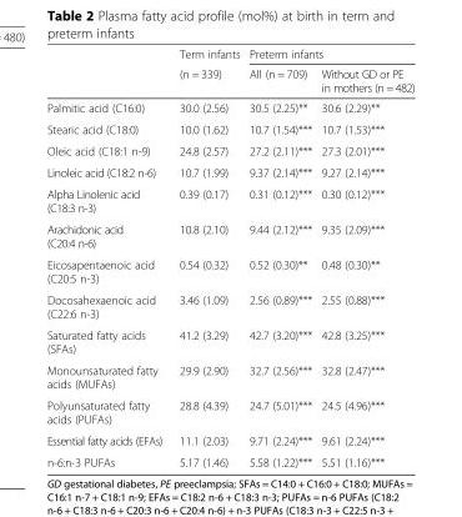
<table><thead><tr><td rowspan="2"></td><td rowspan="2">Term infants (n = 339)</td><td colspan="2">Preterm infants</td></tr><tr><td>All (n = 709)</td><td>Without GD or PE in mothers (n = 482)</td></tr></thead><tbody><tr><td>Palmitic acid (C16:0)</td><td>30.0 (2.56)</td><td>30.5 (2.25)**</td><td>30.6 (2.29)**</td></tr><tr><td>Stearic acid (C18:0)</td><td>10.0 (1.62)</td><td>10.7 (1.54)***</td><td>10.7 (1.53)***</td></tr><tr><td>Oleic acid (C18:1 n-9)</td><td>24.8 (2.57)</td><td>27.2 (2.11)***</td><td>27.3 (2.01)***</td></tr><tr><td>Linoleic acid (C18:2 n-6)</td><td>10.7 (1.99)</td><td>9.37 (2.14)***</td><td>9.27 (2.14)***</td></tr><tr><td>Alpha Linolenic acid (C18:3 n-3)</td><td>0.39 (0.17)</td><td>0.31 (0.12)***</td><td>0.30 (0.12)***</td></tr><tr><td>Arachidonic acid (C20:4 n-6)</td><td>10.8 (2.10)</td><td>9.44 (2.12)***</td><td>9.35 (2.09)***</td></tr><tr><td>Eicosapentaenoic acid (C20:5 n-3)</td><td>0.54 (0.32)</td><td>0.52 (0.30)**</td><td>0.48 (0.30)**</td></tr><tr><td>Docosahexaenoic acid (C22:6 n-3)</td><td>3.46 (1.09)</td><td>2.56 (0.89)***</td><td>2.55 (0.88)***</td></tr><tr><td>Saturated fatty acids (SFAs)</td><td>41.2 (3.29)</td><td>42.7 (3.20)***</td><td>42.8 (3.25)***</td></tr><tr><td>Monounsaturated fatty acids (MUFAs)</td><td>29.9 (2.90)</td><td>32.7 (2.56)***</td><td>32.8 (2.47)***</td></tr><tr><td>Polyunsaturated fatty acids (PUFAs)</td><td>28.8 (4.39)</td><td>24.7 (5.01)***</td><td>24.5 (4.96)***</td></tr><tr><td>Essential fatty acids (EFAs)</td><td>11.1 (2.03)</td><td>9.71 (2.24)***</td><td>9.61 (2.24)***</td></tr><tr><td>n-6:n-3 PUFAs</td><td>5.17 (1.46)</td><td>5.58 (1.22)***</td><td>5.51 (1.16)***</td></tr></tbody></table>